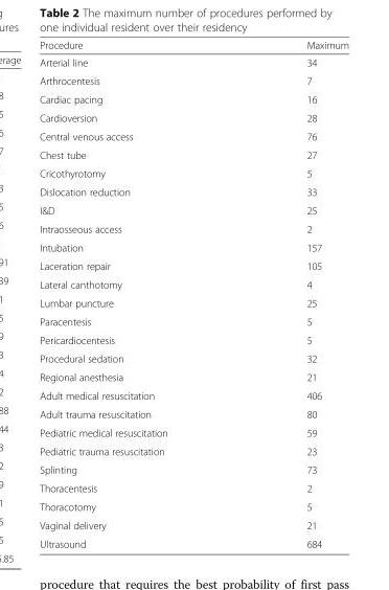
<table><thead><tr><td>Procedure</td><td>Maximum</td></tr></thead><tbody><tr><td>Arterial line</td><td>34</td></tr><tr><td>Arthrocentesis</td><td>7</td></tr><tr><td>Cardiac pacing</td><td>16</td></tr><tr><td>Cardioversion</td><td>28</td></tr><tr><td>Central venous access</td><td>76</td></tr><tr><td>Chest tube</td><td>27</td></tr><tr><td>Cricothyrotomy</td><td>5</td></tr><tr><td>Dislocation reduction</td><td>33</td></tr><tr><td>I&amp;D</td><td>25</td></tr><tr><td>Intraosseous access</td><td>2</td></tr><tr><td>Intubation</td><td>157</td></tr><tr><td>Laceration repair</td><td>105</td></tr><tr><td>Lateral canthotomy</td><td>4</td></tr><tr><td>Lumbar puncture</td><td>25</td></tr><tr><td>Paracentesis</td><td>5</td></tr><tr><td>Pericardiocentesis</td><td>5</td></tr><tr><td>Procedural sedation</td><td>32</td></tr><tr><td>Regional anesthesia</td><td>21</td></tr><tr><td>Adult medical resuscitation</td><td>406</td></tr><tr><td>Adult trauma resuscitation</td><td>80</td></tr><tr><td>Pediatric medical resuscitation</td><td>59</td></tr><tr><td>Pediatric trauma resuscitation</td><td>23</td></tr><tr><td>Splinting</td><td>73</td></tr><tr><td>Thoracentesis</td><td>2</td></tr><tr><td>Thoracotomy</td><td>5</td></tr><tr><td>Vaginal delivery</td><td>21</td></tr><tr><td>Ultrasound</td><td>684</td></tr></tbody></table>